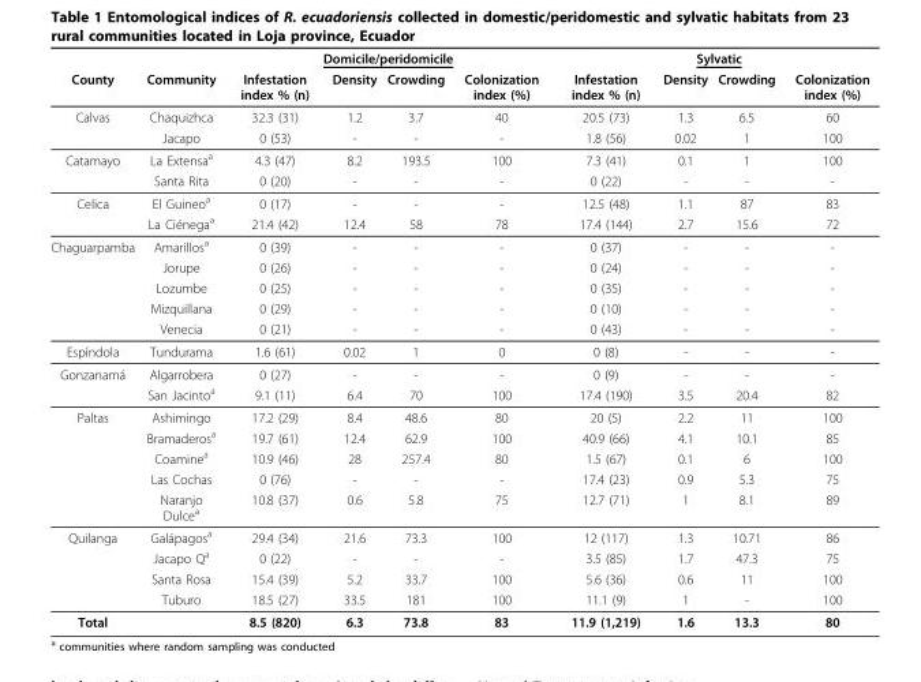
<table><thead><tr><td rowspan="2">County</td><td rowspan="2">Community</td><td colspan="4">Domicile/peridomicile</td><td colspan="4">Sylvatic</td></tr><tr><td>Infestation index % (n)</td><td>Density</td><td>Crowding</td><td>Colonization index (%)</td><td>Infestation index % (n)</td><td>Density</td><td>Crowding</td><td>Colonization index (%)</td></tr></thead><tbody><tr><td rowspan="2">Calvas</td><td>Chaquizhca</td><td>32.3 (31)</td><td>1.2</td><td>3.7</td><td>40</td><td>20.5 (73)</td><td>1.3</td><td>6.5</td><td>60</td></tr><tr><td>Jacapo</td><td>0 (53)</td><td>-</td><td>-</td><td>-</td><td>1.8 (56)</td><td>0.02</td><td>1</td><td>100</td></tr><tr><td rowspan="2">Catamayo</td><td>La Extensaa</td><td>4.3 (47)</td><td>8.2</td><td>193.5</td><td>100</td><td>7.3 (41)</td><td>0.1</td><td>1</td><td>100</td></tr><tr><td>Santa Rita</td><td>0 (20)</td><td>-</td><td>-</td><td>-</td><td>0 (22)</td><td>-</td><td>-</td><td>-</td></tr><tr><td rowspan="2">Celica</td><td>El Guineoa</td><td>0 (17)</td><td>-</td><td>-</td><td>-</td><td>12.5 (48)</td><td>1.1</td><td>87</td><td>83</td></tr><tr><td>La Ciénegaa</td><td>21.4 (42)</td><td>12.4</td><td>58</td><td>78</td><td>17.4 (144)</td><td>2.7</td><td>15.6</td><td>72</td></tr><tr><td rowspan="5">Chaguarpamba</td><td>Amarillosa</td><td>0 (39)</td><td>-</td><td>-</td><td>-</td><td>0 (37)</td><td>-</td><td>-</td><td>-</td></tr><tr><td>Jorupe</td><td>0 (26)</td><td>-</td><td>-</td><td>-</td><td>0 (24)</td><td>-</td><td>-</td><td>-</td></tr><tr><td>Lozumbe</td><td>0 (25)</td><td>-</td><td>-</td><td>-</td><td>0 (35)</td><td>-</td><td>-</td><td>-</td></tr><tr><td>Mizquillana</td><td>0 (29)</td><td>-</td><td>-</td><td>-</td><td>0 (10)</td><td>-</td><td>-</td><td>-</td></tr><tr><td>Venecia</td><td>0 (21)</td><td>-</td><td>-</td><td>-</td><td>0 (43)</td><td>-</td><td>-</td><td>-</td></tr><tr><td>Espíndola</td><td>Tundurama</td><td>1.6 (61)</td><td>0.02</td><td>1</td><td>0</td><td>0 (8)</td><td>-</td><td>-</td><td>-</td></tr><tr><td rowspan="2">Gonzanamá</td><td>Algarrobera</td><td>0 (27)</td><td>-</td><td>-</td><td>-</td><td>0 (9)</td><td>-</td><td>-</td><td>-</td></tr><tr><td>San Jacinto<sup>a</sup></td><td>9.1 (11)</td><td>6.4</td><td>70</td><td>100</td><td>17.4 (190)</td><td>3.5</td><td>20.4</td><td>82</td></tr><tr><td rowspan="5">Paltas</td><td>Ashimingo</td><td>17.2 (29)</td><td>8.4</td><td>48.6</td><td>80</td><td>20 (5)</td><td>2.2</td><td>11</td><td>100</td></tr><tr><td>Bramaderos<sup>a</sup></td><td>19.7 (61)</td><td>12.4</td><td>62.9</td><td>100</td><td>40.9 (66)</td><td>4.1</td><td>10.1</td><td>85</td></tr><tr><td>Coamine<sup>a</sup></td><td>10.9 (46)</td><td>28</td><td>257.4</td><td>80</td><td>1.5 (67)</td><td>0.1</td><td>6</td><td>100</td></tr><tr><td>Las Cochas</td><td>0 (76)</td><td>-</td><td>-</td><td>-</td><td>17.4 (23)</td><td>0.9</td><td>5.3</td><td>75</td></tr><tr><td>Naranjo Dulce<sup>a</sup></td><td>10.8 (37)</td><td>0.6</td><td>5.8</td><td>75</td><td>12.7 (71)</td><td>1</td><td>8.1</td><td>89</td></tr><tr><td rowspan="4">Quilanga</td><td>Galápagos<sup>a</sup></td><td>29.4 (34)</td><td>21.6</td><td>73.3</td><td>100</td><td>12 (117)</td><td>1.3</td><td>10.71</td><td>86</td></tr><tr><td>Jacapo Q<sup>a</sup></td><td>0 (22)</td><td>-</td><td>-</td><td>-</td><td>3.5 (85)</td><td>1.7</td><td>47.3</td><td>75</td></tr><tr><td>Santa Rosa</td><td>15.4 (39)</td><td>5.2</td><td>33.7</td><td>100</td><td>5.6 (36)</td><td>0.6</td><td>11</td><td>100</td></tr><tr><td>Tuburo</td><td>18.5 (27)</td><td>33.5</td><td>181</td><td>100</td><td>11.1 (9)</td><td>1</td><td>-</td><td>100</td></tr><tr><td>Total</td><td></td><td>8.5 (820)</td><td>6.3</td><td>73.8</td><td>83</td><td>11.9 (1,219)</td><td>1.6</td><td>13.3</td><td>80</td></tr></tbody></table>